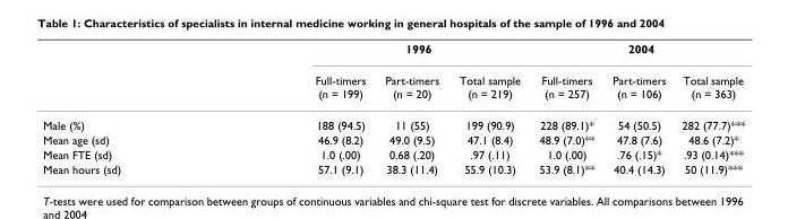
<table><thead><tr><td rowspan="2"></td><td colspan="3">1996</td><td colspan="3">2004</td></tr><tr><td>Full-timers (n = 199)</td><td>Part-timers (n = 20)</td><td>Total sample (n = 219)</td><td>Full-timers (n = 257)</td><td>Part-timers (n = 106)</td><td>Total sample (n = 363)</td></tr></thead><tbody><tr><td>Male (%)</td><td>188 (94.5)</td><td>11 (55)</td><td>199 (90.9)</td><td>228 (89.1)*</td><td>54 (50.5)</td><td>282 (77.7)***</td></tr><tr><td>Mean age (sd)</td><td>46.9 (8.2)</td><td>49.0 (9.5)</td><td>47.1 (8.4)</td><td>48.9 (7.0)**</td><td>47.8 (7.6)</td><td>48.6 (7.2)*</td></tr><tr><td>Mean FTE (sd)</td><td>1.0 (.00)</td><td>0.68 (.20)</td><td>.97 (.11)</td><td>1.0 (.00)</td><td>.76 (.15)*</td><td>.93 (0.14)***</td></tr><tr><td>Mean hours (sd)</td><td>57.1 (9.1)</td><td>38.3 (11.4)</td><td>55.9 (10.3)</td><td>53.9 (8.1)**</td><td>40.4 (14.3)</td><td>50 (11.9)***</td></tr></tbody></table>